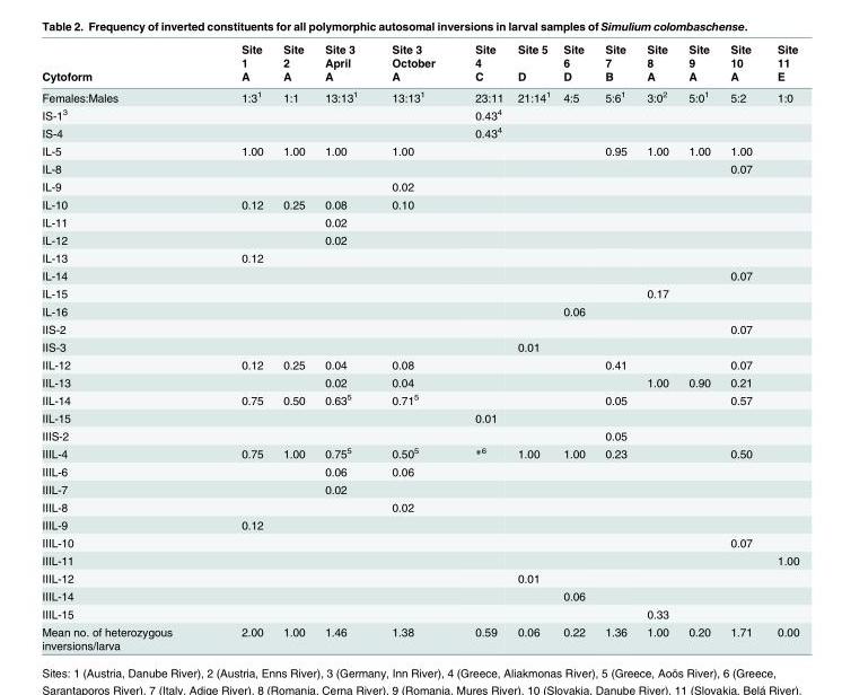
<table><thead><tr><td rowspan="2">Cytoform</td><td rowspan="2">Site 1 A</td><td rowspan="2">Site 2 A</td><td rowspan="2">Site 3 April A</td><td rowspan="2">Site 3 October A</td><td rowspan="2">Site 4 C</td><td rowspan="2">Site 5 D</td><td rowspan="2">Site 6 D</td><td rowspan="2">Site 7 B</td><td rowspan="2">Site 8 A</td><td rowspan="2">Site 9 A</td><td rowspan="2">Site 10 A</td><td rowspan="2">Site 11 E</td></tr><tr></tr></thead><tbody><tr><td>Females:Males</td><td>1:3<sup>1</sup></td><td>1:1</td><td>13:13<sup>1</sup></td><td>13:13<sup>1</sup></td><td>23:11</td><td>21:14<sup>1</sup></td><td>4:5</td><td>5:6<sup>1</sup></td><td>3:0<sup>2</sup></td><td>5:0<sup>1</sup></td><td>5:2</td><td>1:0</td></tr><tr><td>IS-1<sup>3</sup></td><td></td><td></td><td></td><td></td><td>0.43<sup>4</sup></td><td></td><td></td><td></td><td></td><td></td><td></td><td></td></tr><tr><td>IS-4</td><td></td><td></td><td></td><td></td><td>0.43<sup>4</sup></td><td></td><td></td><td></td><td></td><td></td><td></td><td></td></tr><tr><td>IL-5</td><td>1.00</td><td>1.00</td><td>1.00</td><td>1.00</td><td></td><td></td><td></td><td>0.95</td><td>1.00</td><td>1.00</td><td>1.00</td><td></td></tr><tr><td>IL-8</td><td></td><td></td><td></td><td></td><td></td><td></td><td></td><td></td><td></td><td></td><td>0.07</td><td></td></tr><tr><td>IL-9</td><td></td><td></td><td></td><td>0.02</td><td></td><td></td><td></td><td></td><td></td><td></td><td></td><td></td></tr><tr><td>IL-10</td><td>0.12</td><td>0.25</td><td>0.08</td><td>0.10</td><td></td><td></td><td></td><td></td><td></td><td></td><td></td><td></td></tr><tr><td>IL-11</td><td></td><td></td><td>0.02</td><td></td><td></td><td></td><td></td><td></td><td></td><td></td><td></td><td></td></tr><tr><td>IL-12</td><td></td><td></td><td>0.02</td><td></td><td></td><td></td><td></td><td></td><td></td><td></td><td></td><td></td></tr><tr><td>IL-13</td><td>0.12</td><td></td><td></td><td></td><td></td><td></td><td></td><td></td><td></td><td></td><td></td><td></td></tr><tr><td>IL-14</td><td></td><td></td><td></td><td></td><td></td><td></td><td></td><td></td><td></td><td></td><td>0.07</td><td></td></tr><tr><td>IL-15</td><td></td><td></td><td></td><td></td><td></td><td></td><td></td><td></td><td>0.17</td><td></td><td></td><td></td></tr><tr><td>IL-16</td><td></td><td></td><td></td><td></td><td></td><td></td><td>0.06</td><td></td><td></td><td></td><td></td><td></td></tr><tr><td>IIS-2</td><td></td><td></td><td></td><td></td><td></td><td></td><td></td><td></td><td></td><td></td><td>0.07</td><td></td></tr><tr><td>IIS-3</td><td></td><td></td><td></td><td></td><td></td><td>0.01</td><td></td><td></td><td></td><td></td><td></td><td></td></tr><tr><td>IIL-12</td><td>0.12</td><td>0.25</td><td>0.04</td><td>0.08</td><td></td><td></td><td></td><td>0.41</td><td></td><td></td><td>0.07</td><td></td></tr><tr><td>IIL-13</td><td></td><td></td><td>0.02</td><td>0.04</td><td></td><td></td><td></td><td></td><td>1.00</td><td>0.90</td><td>0.21</td><td></td></tr><tr><td>IIL-14</td><td>0.75</td><td>0.50</td><td>0.63<sup>5</sup></td><td>0.71<sup>5</sup></td><td></td><td></td><td></td><td>0.05</td><td></td><td></td><td>0.57</td><td></td></tr><tr><td>IIL-15</td><td></td><td></td><td></td><td></td><td>0.01</td><td></td><td></td><td></td><td></td><td></td><td></td><td></td></tr><tr><td>IIIS-2</td><td></td><td></td><td></td><td></td><td></td><td></td><td></td><td>0.05</td><td></td><td></td><td></td><td></td></tr><tr><td>IIIL-4</td><td>0.75</td><td>1.00</td><td>0.75<sup>5</sup></td><td>0.50<sup>5</sup></td><td>*<sup>6</sup></td><td>1.00</td><td>1.00</td><td>0.23</td><td></td><td></td><td>0.50</td><td></td></tr><tr><td>IIIL-6</td><td></td><td></td><td>0.06</td><td>0.06</td><td></td><td></td><td></td><td></td><td></td><td></td><td></td><td></td></tr><tr><td>IIIL-7</td><td></td><td></td><td>0.02</td><td></td><td></td><td></td><td></td><td></td><td></td><td></td><td></td><td></td></tr><tr><td>IIIL-8</td><td></td><td></td><td></td><td>0.02</td><td></td><td></td><td></td><td></td><td></td><td></td><td></td><td></td></tr><tr><td>IIIL-9</td><td>0.12</td><td></td><td></td><td></td><td></td><td></td><td></td><td></td><td></td><td></td><td></td><td></td></tr><tr><td>IIIL-10</td><td></td><td></td><td></td><td></td><td></td><td></td><td></td><td></td><td></td><td></td><td>0.07</td><td></td></tr><tr><td>IIIL-11</td><td></td><td></td><td></td><td></td><td></td><td></td><td></td><td></td><td></td><td></td><td></td><td>1.00</td></tr><tr><td>IIIL-12</td><td></td><td></td><td></td><td></td><td></td><td>0.01</td><td></td><td></td><td></td><td></td><td></td><td></td></tr><tr><td>IIIL-14</td><td></td><td></td><td></td><td></td><td></td><td></td><td>0.06</td><td></td><td></td><td></td><td></td><td></td></tr><tr><td>IIIL-15</td><td></td><td></td><td></td><td></td><td></td><td></td><td></td><td></td><td>0.33</td><td></td><td></td><td></td></tr><tr><td>Mean no. of heterozygous inversions/larva</td><td>2.00</td><td>1.00</td><td>1.46</td><td>1.38</td><td>0.59</td><td>0.06</td><td>0.22</td><td>1.36</td><td>1.00</td><td>0.20</td><td>1.71</td><td>0.00</td></tr></tbody></table>